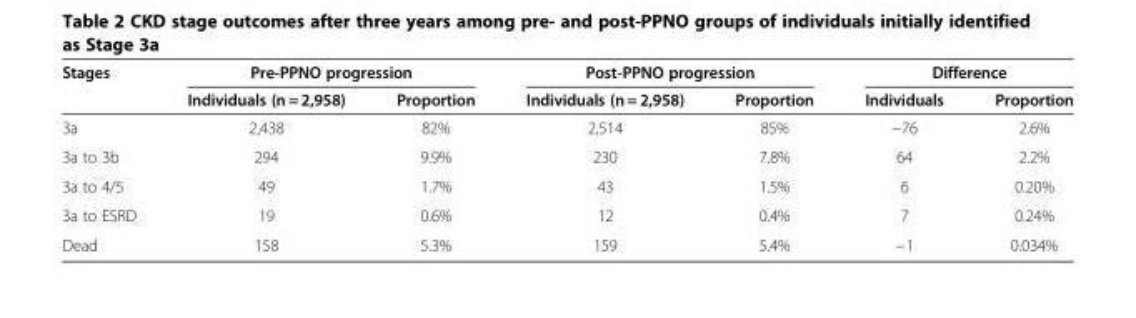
<table><thead><tr><td rowspan="2">Stages</td><td colspan="2">Pre-PPNO progression</td><td colspan="2">Post-PPNO progression</td><td colspan="2">Difference</td></tr><tr><td>Individuals (n = 2,958)</td><td>Proportion</td><td>Individuals (n = 2,958)</td><td>Proportion</td><td>Individuals</td><td>Proportion</td></tr></thead><tbody><tr><td>3a</td><td>2,438</td><td>82%</td><td>2,514</td><td>85%</td><td>−76</td><td>2.6%</td></tr><tr><td>3a to 3b</td><td>294</td><td>9.9%</td><td>230</td><td>7.8%</td><td>64</td><td>2.2%</td></tr><tr><td>3a to 4/5</td><td>49</td><td>1.7%</td><td>43</td><td>1.5%</td><td>6</td><td>0.20%</td></tr><tr><td>3a to ESRD</td><td>19</td><td>0.6%</td><td>12</td><td>0.4%</td><td>7</td><td>0.24%</td></tr><tr><td>Dead</td><td>158</td><td>5.3%</td><td>159</td><td>5.4%</td><td>−1</td><td>0.034%</td></tr></tbody></table>